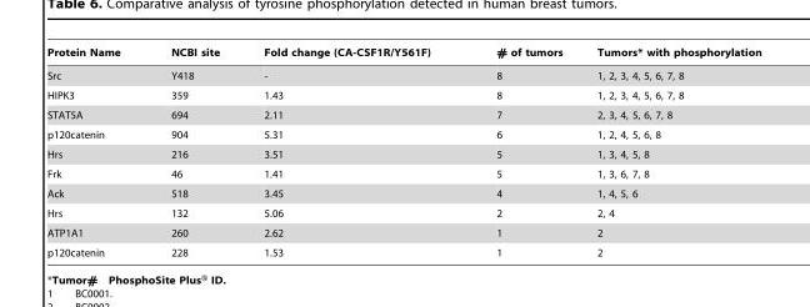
<table><thead><tr><td>Protein Name</td><td>NCBI site</td><td>Fold change (CA-CSF1R/Y561F)</td><td># of tumors</td><td>Tumors* with phosphorylation</td></tr></thead><tbody><tr><td>Src</td><td>Y418</td><td>-</td><td>8</td><td>1, 2, 3, 4, 5, 6, 7, 8</td></tr><tr><td>HIPK3</td><td>359</td><td>1.43</td><td>8</td><td>1, 2, 3, 4, 5, 6, 7, 8</td></tr><tr><td>STAT5A</td><td>694</td><td>2.11</td><td>7</td><td>2, 3, 4, 5, 6, 7, 8</td></tr><tr><td>p120catenin</td><td>904</td><td>5.31</td><td>6</td><td>1, 2, 4, 5, 6, 8</td></tr><tr><td>Hrs</td><td>216</td><td>3.51</td><td>5</td><td>1, 3, 4, 5, 8</td></tr><tr><td>Frk</td><td>46</td><td>1.41</td><td>5</td><td>1, 3, 6, 7, 8</td></tr><tr><td>Ack</td><td>518</td><td>3.45</td><td>4</td><td>1, 4, 5, 6</td></tr><tr><td>Hrs</td><td>132</td><td>5.06</td><td>2</td><td>2, 4</td></tr><tr><td>ATP1A1</td><td>260</td><td>2.62</td><td>1</td><td>2</td></tr><tr><td>p120catenin</td><td>228</td><td>1.53</td><td>1</td><td>2</td></tr></tbody></table>